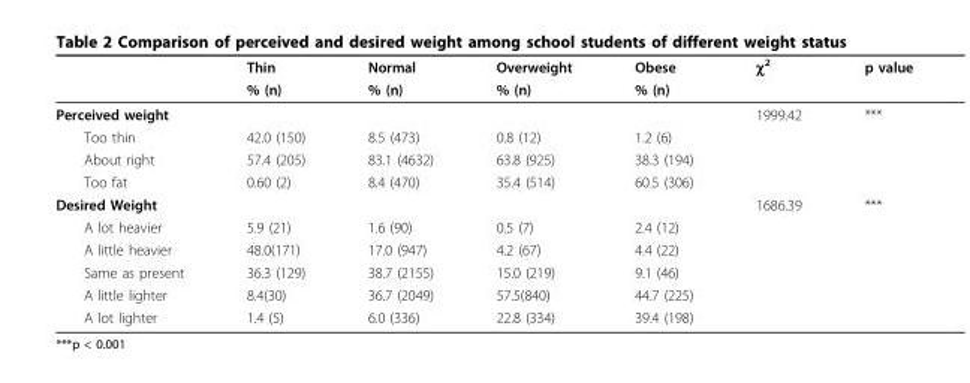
<table><thead><tr><td rowspan="2"></td><td rowspan="2">Thin % (n)</td><td rowspan="2">Normal % (n)</td><td rowspan="2">Overweight % (n)</td><td rowspan="2">Obese % (n)</td><td rowspan="2">χ<sup>2</sup></td><td rowspan="2">p value</td></tr><tr></tr></thead><tbody><tr><td colspan="5">Perceived weight</td><td>1999.42</td><td>***</td></tr><tr><td>Too thin</td><td>42.0 (150)</td><td>8.5 (473)</td><td>0.8 (12)</td><td>1.2 (6)</td><td></td><td></td></tr><tr><td>About right</td><td>57.4 (205)</td><td>83.1 (4632)</td><td>63.8 (925)</td><td>38.3 (194)</td><td></td><td></td></tr><tr><td>Too fat</td><td>0.60 (2)</td><td>8.4 (470)</td><td>35.4 (514)</td><td>60.5 (306)</td><td></td><td></td></tr><tr><td colspan="5">Desired Weight</td><td>1686.39</td><td>***</td></tr><tr><td>A lot heavier</td><td>5.9 (21)</td><td>1.6 (90)</td><td>0.5 (7)</td><td>2.4 (12)</td><td></td><td></td></tr><tr><td>A little heavier</td><td>48.0(171)</td><td>17.0 (947)</td><td>4.2 (67)</td><td>4.4 (22)</td><td></td><td></td></tr><tr><td>Same as present</td><td>36.3 (129)</td><td>38.7 (2155)</td><td>15.0 (219)</td><td>9.1 (46)</td><td></td><td></td></tr><tr><td>A little lighter</td><td>8.4(30)</td><td>36.7 (2049)</td><td>57.5(840)</td><td>44.7 (225)</td><td></td><td></td></tr><tr><td>A lot lighter</td><td>1.4 (5)</td><td>6.0 (336)</td><td>22.8 (334)</td><td>39.4 (198)</td><td></td><td></td></tr></tbody></table>